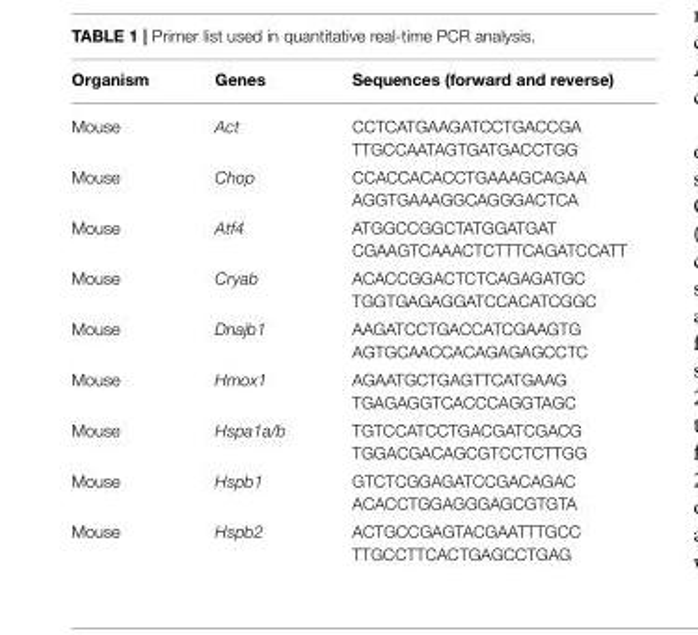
<table><thead><tr><td>Organism</td><td>Genes</td><td>Sequences (forward and reverse)</td></tr></thead><tbody><tr><td>Mouse</td><td>Act</td><td>CCTCATGAAGATCCTGACCGA TTGCCAATAGTGATGACCTGG</td></tr><tr><td>Mouse</td><td>Chop</td><td>CCACCACACCTGAAAGCAGAA AGGTGAAAGGCAGGGACTCA</td></tr><tr><td>Mouse</td><td>Atf4</td><td>ATGGCCGGCTATGGATGAT CGAAGTCAAACTCTTTCAGATCCATT</td></tr><tr><td>Mouse</td><td>Cryab</td><td>ACACCGGACTCTCAGAGATGC TGGTGAGAGGATCCACATCGGC</td></tr><tr><td>Mouse</td><td>Dnajb1</td><td>AAGATCCTGACCATCGAAGTG AGTGCAACCACAGAGAGCCTC</td></tr><tr><td>Mouse</td><td>Hmox1</td><td>AGAATGCTGAGTTCATGAAG TGAGAGGTCACCCAGGTAGC</td></tr><tr><td>Mouse</td><td>Hspa1a/b</td><td>TGTCCATCCTGACGATCGACG TGGACGACAGCGTCCTCTTGG</td></tr><tr><td>Mouse</td><td>Hspb1</td><td>GTCTCGGAGATCCGACAGAC ACACCTGGAGGGAGCGTGTA</td></tr><tr><td>Mouse</td><td>Hspb2</td><td>ACTGCCGAGTACGAATTTGCC TTGCCTTCACTGAGCCTGAG</td></tr></tbody></table>